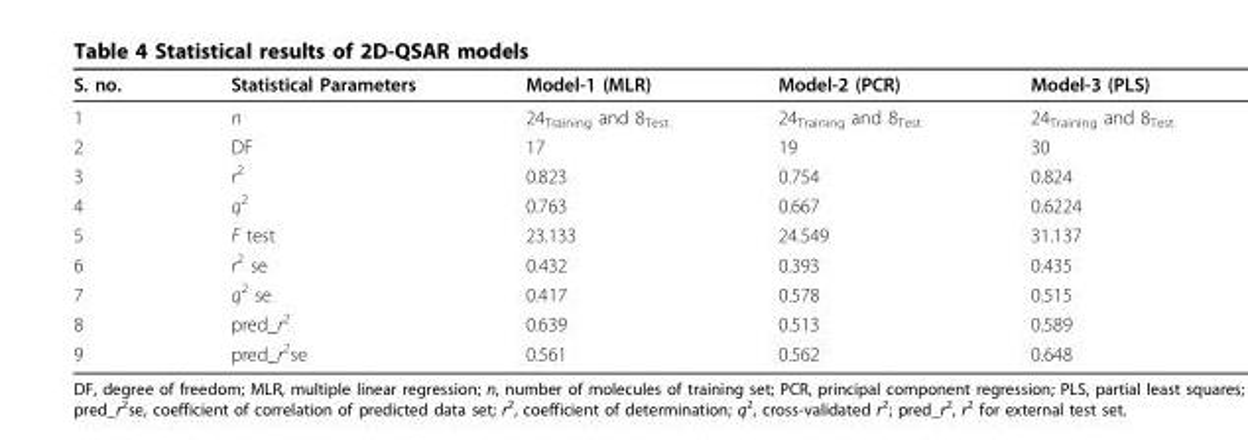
<table><thead><tr><td>S. no.</td><td>Statistical Parameters</td><td>Model-1 (MLR)</td><td>Model-2 (PCR)</td><td>Model-3 (PLS)</td></tr></thead><tbody><tr><td>1</td><td>n</td><td>24<sub>Training</sub> and 8<sub>Test</sub></td><td>24<sub>Training</sub> and 8<sub>Test</sub></td><td>24<sub>Training</sub> and 8<sub>Test</sub></td></tr><tr><td>2</td><td>DF</td><td>17</td><td>19</td><td>30</td></tr><tr><td>3</td><td>r<sup>2</sup></td><td>0.823</td><td>0.754</td><td>0.824</td></tr><tr><td>4</td><td>q<sup>2</sup></td><td>0.763</td><td>0.667</td><td>0.6224</td></tr><tr><td>5</td><td>F test</td><td>23.133</td><td>24.549</td><td>31.137</td></tr><tr><td>6</td><td>r<sup>2</sup> se</td><td>0.432</td><td>0.393</td><td>0.435</td></tr><tr><td>7</td><td>q<sup>2</sup> se</td><td>0.417</td><td>0.578</td><td>0.515</td></tr><tr><td>8</td><td>pred_r<sup>2</sup></td><td>0.639</td><td>0.513</td><td>0.589</td></tr><tr><td>9</td><td>pred_r<sup>2</sup>se</td><td>0.561</td><td>0.562</td><td>0.648</td></tr></tbody></table>